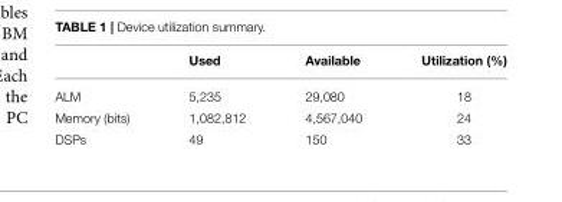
<table><thead><tr><td></td><td>Used</td><td>Available</td><td>Utilization (%)</td></tr></thead><tbody><tr><td>ALM</td><td>5,235</td><td>29,080</td><td>18</td></tr><tr><td>Memory (bits)</td><td>1,082,812</td><td>4,567,040</td><td>24</td></tr><tr><td>DSPs</td><td>49</td><td>150</td><td>33</td></tr></tbody></table>